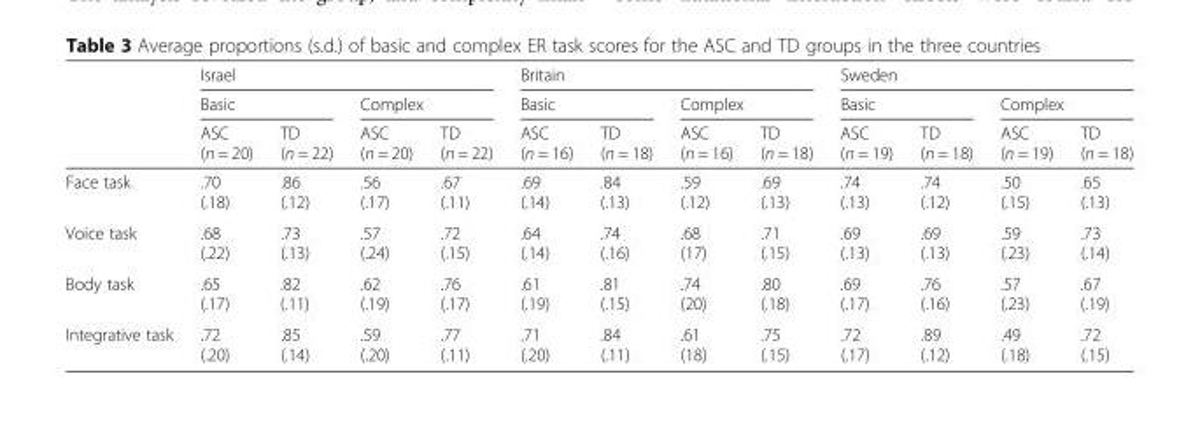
<table><thead><tr><td rowspan="3"></td><td colspan="4">Israel</td><td colspan="4">Britain</td><td colspan="4">Sweden</td></tr><tr><td colspan="2">Basic</td><td colspan="2">Complex</td><td colspan="2">Basic</td><td colspan="2">Complex</td><td colspan="2">Basic</td><td colspan="2">Complex</td></tr><tr><td>ASC (n = 20)</td><td>TD (n = 22)</td><td>ASC (n = 20)</td><td>TD (n = 22)</td><td>ASC (n = 16)</td><td>TD (n = 18)</td><td>ASC (n = 16)</td><td>TD (n = 18)</td><td>ASC (n = 19)</td><td>TD (n = 18)</td><td>ASC (n = 19)</td><td>TD (n = 18)</td></tr></thead><tbody><tr><td>Face task</td><td>.70 (.18)</td><td>.86 (.12)</td><td>.56 (.17)</td><td>.67 (.11)</td><td>.69 (.14)</td><td>.84 (.13)</td><td>.59 (.12)</td><td>.69 (.13)</td><td>.74 (.13)</td><td>.74 (.12)</td><td>.50 (.15)</td><td>.65 (.13)</td></tr><tr><td>Voice task</td><td>.68 (.22)</td><td>.73 (.13)</td><td>.57 (.24)</td><td>.72 (.15)</td><td>.64 (.14)</td><td>.74 (.16)</td><td>.68 (17)</td><td>.71 (.15)</td><td>.69 (.13)</td><td>.69 (.13)</td><td>.59 (.23)</td><td>.73 (.14)</td></tr><tr><td>Body task</td><td>.65 (.17)</td><td>.82 (.11)</td><td>.62 (.19)</td><td>.76 (.17)</td><td>.61 (.19)</td><td>.81 (.15)</td><td>.74 (20)</td><td>.80 (.18)</td><td>.69 (.17)</td><td>.76 (.16)</td><td>.57 (.23)</td><td>.67 (.19)</td></tr><tr><td>Integrative task</td><td>.72 (.20)</td><td>.85 (.14)</td><td>.59 (.20)</td><td>.77 (.11)</td><td>.71 (.20)</td><td>.84 (.11)</td><td>.61 (18)</td><td>.75 (.15)</td><td>.72 (.17)</td><td>.89 (.12)</td><td>.49 (.18)</td><td>.72 (.15)</td></tr></tbody></table>